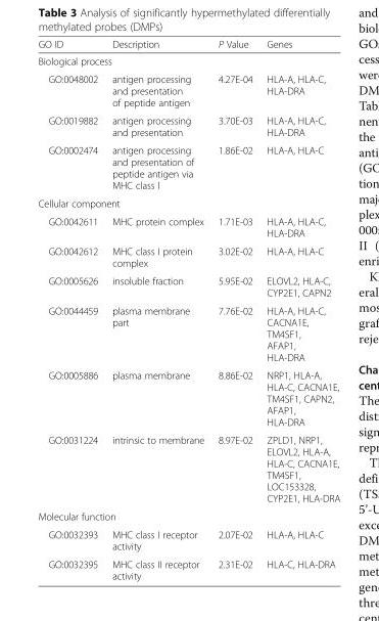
<table><thead><tr><td>GO ID</td><td>Description</td><td>P Value</td><td>Genes</td></tr></thead><tbody><tr><td colspan="4">Biological process</td></tr><tr><td>GO:0048002</td><td>antigen processing and presentation of peptide antigen</td><td>4.27E-04</td><td>HLA-A, HLA-C, HLA-DRA</td></tr><tr><td>GO:0019882</td><td>antigen processing and presentation</td><td>3.70E-03</td><td>HLA-A, HLA-C, HLA-DRA</td></tr><tr><td>GO:0002474</td><td>antigen processing and presentation of peptide antigen via MHC class I</td><td>1.86E-02</td><td>HLA-A, HLA-C</td></tr><tr><td colspan="4">Cellular component</td></tr><tr><td>GO:0042611</td><td>MHC protein complex</td><td>1.71E-03</td><td>HLA-A, HLA-C, HLA-DRA</td></tr><tr><td>GO:0042612</td><td>MHC class I protein complex</td><td>3.02E-02</td><td>HLA-A, HLA-C</td></tr><tr><td>GO:0005626</td><td>insoluble fraction</td><td>5.95E-02</td><td>ELOVL2, HLA-C, CYP2E1, CAPN2</td></tr><tr><td>GO:0044459</td><td>plasma membrane part</td><td>7.76E-02</td><td>HLA-A, HLA-C, CACNA1E, TM4SF1, AFAP1, HLA-DRA</td></tr><tr><td>GO:0005886</td><td>plasma membrane</td><td>8.86E-02</td><td>NRP1, HLA-A, HLA-C, CACNA1E, TM4SF1, CAPN2, AFAP1, HLA-DRA</td></tr><tr><td>GO:0031224</td><td>intrinsic to membrane</td><td>8.97E-02</td><td>ZPLD1, NRP1, ELOVL2, HLA-A, HLA-C, CACNA1E, TM4SF1, LOC153328, CYP2E1, HLA-DRA</td></tr><tr><td colspan="4">Molecular function</td></tr><tr><td>GO:0032393</td><td>MHC class I receptor activity</td><td>2.07E-02</td><td>HLA-A, HLA-C</td></tr><tr><td>GO:0032395</td><td>MHC class II receptor activity</td><td>2.31E-02</td><td>HLA-C, HLA-DRA</td></tr></tbody></table>